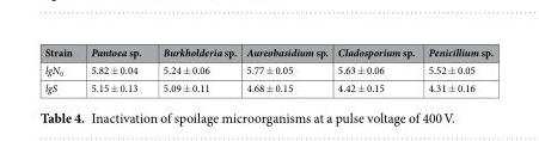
<table><thead><tr><td>Strain</td><td>Pantoea sp.</td><td>Burkholderia sp.</td><td>Aureobasidium sp.</td><td>Cladosporium sp.</td><td>Penicillium sp.</td></tr></thead><tbody><tr><td>lgN<sub>0</sub></td><td>5.82 ± 0.04</td><td>5.24 ± 0.06</td><td>5.77 ± 0.05</td><td>5.63 ± 0.06</td><td>5.52 ± 0.05</td></tr><tr><td>lgS</td><td>5.15 ± 0.13</td><td>5.09 ± 0.11</td><td>4.68 ± 0.15</td><td>4.42 ± 0.15</td><td>4.31 ± 0.16</td></tr></tbody></table>